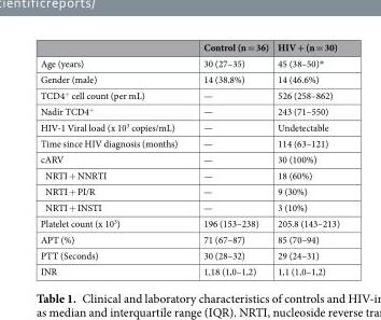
<table><thead><tr><td></td><td>Control (n = 36)</td><td>HIV + (n = 30)</td></tr></thead><tbody><tr><td>Age (years)</td><td>30 (27–35)</td><td>45 (38–50)*</td></tr><tr><td>Gender (male)</td><td>14 (38.8%)</td><td>14 (46.6%)</td></tr><tr><td>TCD4<sup>+</sup> cell count (per mL)</td><td>—</td><td>526 (258–862)</td></tr><tr><td>Nadir TCD4<sup>+</sup></td><td>—</td><td>243 (71–550)</td></tr><tr><td>HIV-1 Viral load (x 10<sup>3</sup> copies/mL)</td><td>—</td><td>Undetectable</td></tr><tr><td>Time since HIV diagnosis (months)</td><td>—</td><td>114 (63–121)</td></tr><tr><td>cARV</td><td>—</td><td>30 (100%)</td></tr><tr><td>NRTI + NNRTI</td><td>—</td><td>18 (60%)</td></tr><tr><td>NRTI + PI/R</td><td>—</td><td>9 (30%)</td></tr><tr><td>NRTI + INSTI</td><td>—</td><td>3 (10%)</td></tr><tr><td>Platelet count (x 10<sup>3</sup>)</td><td>196 (153–238)</td><td>205.8 (143–213)</td></tr><tr><td>APT (%)</td><td>71 (67–87)</td><td>85 (70–94)</td></tr><tr><td>PTT (Seconds)</td><td>30 (28–32)</td><td>29 (24–31)</td></tr><tr><td>INR</td><td>1,18 (1,0–1,2)</td><td>1,1 (1,0–1,2)</td></tr></tbody></table>